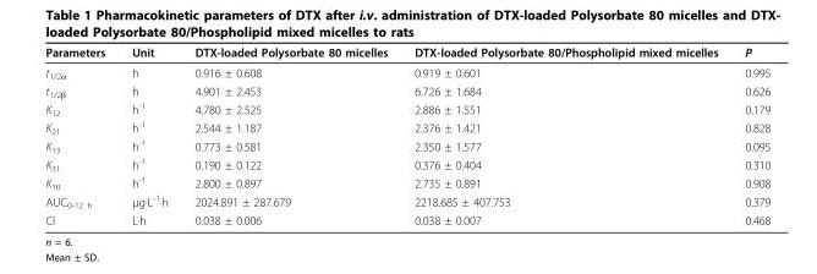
<table><thead><tr><td>Parameters</td><td>Unit</td><td>DTX-loaded Polysorbate 80 micelles</td><td>DTX-loaded Polysorbate 80/Phospholipid mixed micelles</td><td>P</td></tr></thead><tbody><tr><td>t<sub>1/2α</sub></td><td>h</td><td>0.916 ± 0.608</td><td>0.919 ± 0.601</td><td>0.995</td></tr><tr><td>t<sub>1/2β</sub></td><td>h</td><td>4.901 ± 2.453</td><td>6.726 ± 1.684</td><td>0.626</td></tr><tr><td>K<sub>12</sub></td><td>h<sup>-1</sup></td><td>4.780 ± 2.525</td><td>2.886 ± 1.551</td><td>0.179</td></tr><tr><td>K<sub>21</sub></td><td>h<sup>-1</sup></td><td>2.544 ± 1.187</td><td>2.376 ± 1.421</td><td>0.828</td></tr><tr><td>K<sub>13</sub></td><td>h<sup>-1</sup></td><td>0.773 ± 0.581</td><td>2.350 ± 1.577</td><td>0.095</td></tr><tr><td>K<sub>31</sub></td><td>h<sup>-1</sup></td><td>0.190 ± 0.122</td><td>0.376 ± 0.404</td><td>0.310</td></tr><tr><td>K<sub>10</sub></td><td>h<sup>-1</sup></td><td>2.800 ± 0.897</td><td>2.735 ± 0.891</td><td>0.908</td></tr><tr><td>AUC<sub>0-12 h</sub></td><td>μg∙L<sup>-1</sup>∙h</td><td>2024.891 ± 287.679</td><td>2218.685 ± 407.753</td><td>0.379</td></tr><tr><td>Cl</td><td>L∙h</td><td>0.038 ± 0.006</td><td>0.038 ± 0.007</td><td>0.468</td></tr></tbody></table>